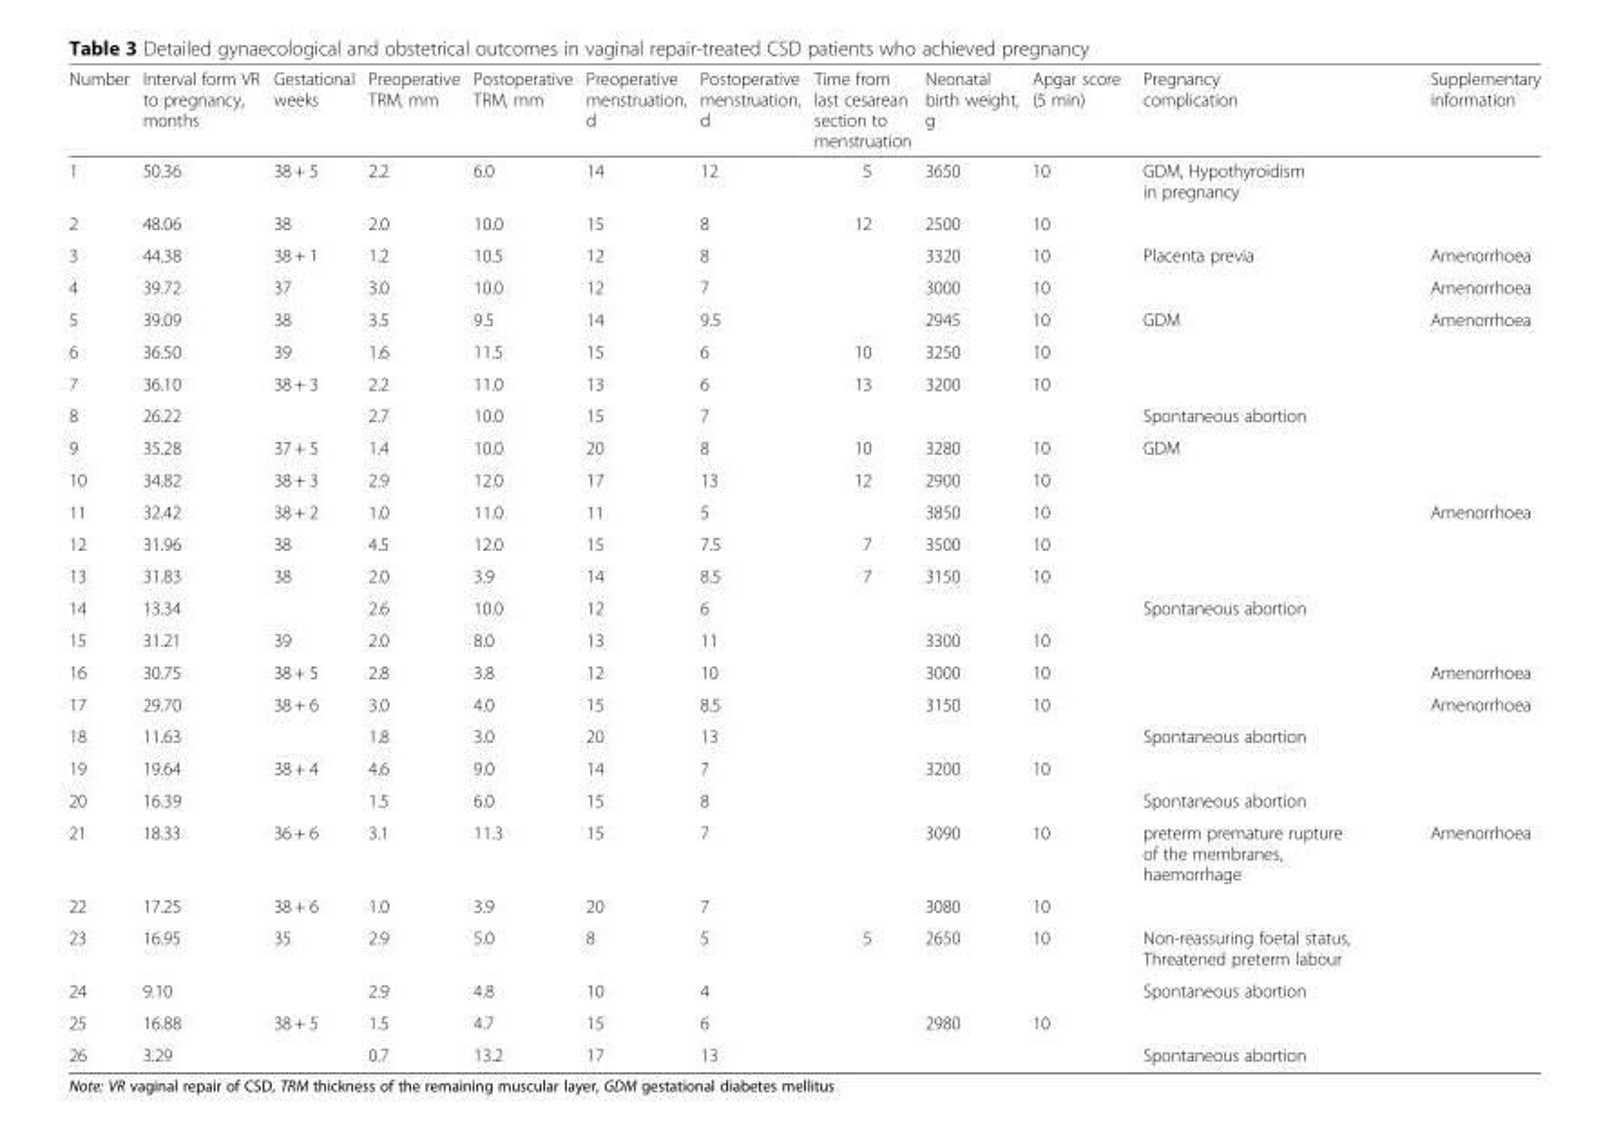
<table><thead><tr><td>Number</td><td>Interval form VR to pregnancy, months</td><td>Gestational weeks</td><td>Preoperative TRM, mm</td><td>Postoperative TRM, mm</td><td>Preoperative menstruation, d</td><td>Postoperative menstruation, d</td><td>Time from last cesarean section to menstruation</td><td>Neonatal birth weight, g</td><td>Apgar score (5 min)</td><td>Pregnancy complication</td><td>Supplementary information</td></tr></thead><tbody><tr><td>1</td><td>50.36</td><td>38 + 5</td><td>2.2</td><td>6.0</td><td>14</td><td>12</td><td>5</td><td>3650</td><td>10</td><td>GDM, Hypothyroidism in pregnancy</td><td></td></tr><tr><td>2</td><td>48.06</td><td>38</td><td>2.0</td><td>10.0</td><td>15</td><td>8</td><td>12</td><td>2500</td><td>10</td><td></td><td></td></tr><tr><td>3</td><td>44.38</td><td>38 + 1</td><td>1.2</td><td>10.5</td><td>12</td><td>8</td><td></td><td>3320</td><td>10</td><td>Placenta previa</td><td>Amenorrhoea</td></tr><tr><td>4</td><td>39.72</td><td>37</td><td>3.0</td><td>10.0</td><td>12</td><td>7</td><td></td><td>3000</td><td>10</td><td></td><td>Amenorrhoea</td></tr><tr><td>5</td><td>39.09</td><td>38</td><td>3.5</td><td>9.5</td><td>14</td><td>9.5</td><td></td><td>2945</td><td>10</td><td>GDM</td><td>Amenorrhoea</td></tr><tr><td>6</td><td>36.50</td><td>39</td><td>1.6</td><td>11.5</td><td>15</td><td>6</td><td>10</td><td>3250</td><td>10</td><td></td><td></td></tr><tr><td>7</td><td>36.10</td><td>38 + 3</td><td>2.2</td><td>11.0</td><td>13</td><td>6</td><td>13</td><td>3200</td><td>10</td><td></td><td></td></tr><tr><td>8</td><td>26.22</td><td></td><td>2.7</td><td>10.0</td><td>15</td><td>7</td><td></td><td></td><td></td><td>Spontaneous abortion</td><td></td></tr><tr><td>9</td><td>35.28</td><td>37 + 5</td><td>1.4</td><td>10.0</td><td>20</td><td>8</td><td>10</td><td>3280</td><td>10</td><td>GDM</td><td></td></tr><tr><td>10</td><td>34.82</td><td>38 + 3</td><td>2.9</td><td>12.0</td><td>17</td><td>13</td><td>12</td><td>2900</td><td>10</td><td></td><td></td></tr><tr><td>11</td><td>32.42</td><td>38 + 2</td><td>1.0</td><td>11.0</td><td>11</td><td>5</td><td></td><td>3850</td><td>10</td><td></td><td>Amenorrhoea</td></tr><tr><td>12</td><td>31.96</td><td>38</td><td>4.5</td><td>12.0</td><td>15</td><td>7.5</td><td>7</td><td>3500</td><td>10</td><td></td><td></td></tr><tr><td>13</td><td>31.83</td><td>38</td><td>2.0</td><td>3.9</td><td>14</td><td>8.5</td><td>7</td><td>3150</td><td>10</td><td></td><td></td></tr><tr><td>14</td><td>13.34</td><td></td><td>2.6</td><td>10.0</td><td>12</td><td>6</td><td></td><td></td><td></td><td>Spontaneous abortion</td><td></td></tr><tr><td>15</td><td>31.21</td><td>39</td><td>2.0</td><td>8.0</td><td>13</td><td>11</td><td></td><td>3300</td><td>10</td><td></td><td></td></tr><tr><td>16</td><td>30.75</td><td>38 + 5</td><td>2.8</td><td>3.8</td><td>12</td><td>10</td><td></td><td>3000</td><td>10</td><td></td><td>Amenorrhoea</td></tr><tr><td>17</td><td>29.70</td><td>38 + 6</td><td>3.0</td><td>4.0</td><td>15</td><td>8.5</td><td></td><td>3150</td><td>10</td><td></td><td>Amenorrhoea</td></tr><tr><td>18</td><td>11.63</td><td></td><td>1.8</td><td>3.0</td><td>20</td><td>13</td><td></td><td></td><td></td><td>Spontaneous abortion</td><td></td></tr><tr><td>19</td><td>19.64</td><td>38 + 4</td><td>4.6</td><td>9.0</td><td>14</td><td>7</td><td></td><td>3200</td><td>10</td><td></td><td></td></tr><tr><td>20</td><td>16.39</td><td></td><td>1.5</td><td>6.0</td><td>15</td><td>8</td><td></td><td></td><td></td><td>Spontaneous abortion</td><td></td></tr><tr><td>21</td><td>18.33</td><td>36 + 6</td><td>3.1</td><td>11.3</td><td>15</td><td>7</td><td></td><td>3090</td><td>10</td><td>preterm premature rupture of the membranes, haemorrhage</td><td>Amenorrhoea</td></tr><tr><td>22</td><td>17.25</td><td>38 + 6</td><td>1.0</td><td>3.9</td><td>20</td><td>7</td><td></td><td>3080</td><td>10</td><td></td><td></td></tr><tr><td>23</td><td>16.95</td><td>35</td><td>2.9</td><td>5.0</td><td>8</td><td>5</td><td>5</td><td>2650</td><td>10</td><td>Non-reassuring foetal status, Threatened preterm labour</td><td></td></tr><tr><td>24</td><td>9.10</td><td></td><td>2.9</td><td>4.8</td><td>10</td><td>4</td><td></td><td></td><td></td><td>Spontaneous abortion</td><td></td></tr><tr><td>25</td><td>16.88</td><td>38 + 5</td><td>1.5</td><td>4.7</td><td>15</td><td>6</td><td></td><td>2980</td><td>10</td><td></td><td></td></tr><tr><td>26</td><td>3.29</td><td></td><td>0.7</td><td>13.2</td><td>17</td><td>13</td><td></td><td></td><td></td><td>Spontaneous abortion</td><td></td></tr></tbody></table>